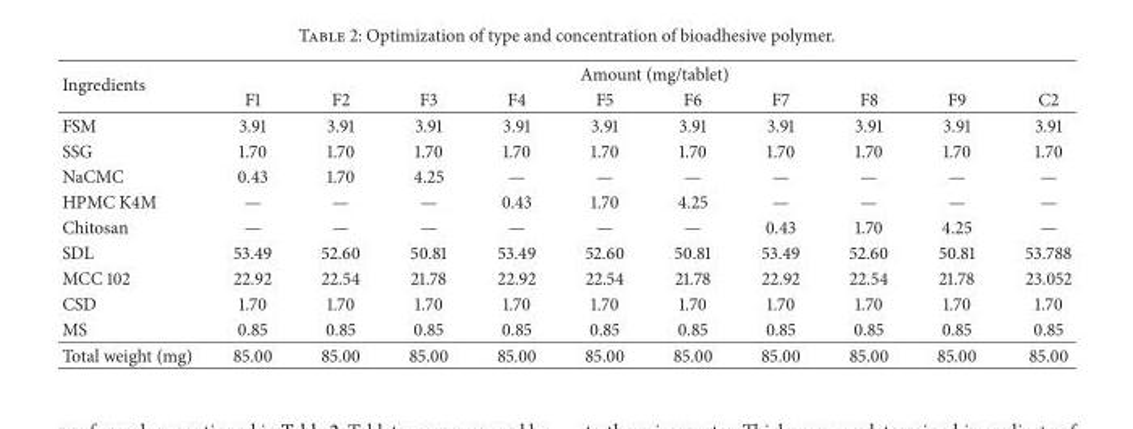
<table><thead><tr><td rowspan="2">Ingredients</td><td colspan="10">Amount (mg/tablet)</td></tr><tr><td>F1</td><td>F2</td><td>F3</td><td>F4</td><td>F5</td><td>F6</td><td>F7</td><td>F8</td><td>F9</td><td>C2</td></tr></thead><tbody><tr><td>FSM</td><td>3.91</td><td>3.91</td><td>3.91</td><td>3.91</td><td>3.91</td><td>3.91</td><td>3.91</td><td>3.91</td><td>3.91</td><td>3.91</td></tr><tr><td>SSG</td><td>1.70</td><td>1.70</td><td>1.70</td><td>1.70</td><td>1.70</td><td>1.70</td><td>1.70</td><td>1.70</td><td>1.70</td><td>1.70</td></tr><tr><td>NaCMC</td><td>0.43</td><td>1.70</td><td>4.25</td><td>—</td><td>—</td><td>—</td><td>—</td><td>—</td><td>—</td><td>—</td></tr><tr><td>HPMC K4M</td><td>—</td><td>—</td><td>—</td><td>0.43</td><td>1.70</td><td>4.25</td><td>—</td><td>—</td><td>—</td><td>—</td></tr><tr><td>Chitosan</td><td>—</td><td>—</td><td>—</td><td>—</td><td>—</td><td>—</td><td>0.43</td><td>1.70</td><td>4.25</td><td>—</td></tr><tr><td>SDL</td><td>53.49</td><td>52.60</td><td>50.81</td><td>53.49</td><td>52.60</td><td>50.81</td><td>53.49</td><td>52.60</td><td>50.81</td><td>53.788</td></tr><tr><td>MCC 102</td><td>22.92</td><td>22.54</td><td>21.78</td><td>22.92</td><td>22.54</td><td>21.78</td><td>22.92</td><td>22.54</td><td>21.78</td><td>23.052</td></tr><tr><td>CSD</td><td>1.70</td><td>1.70</td><td>1.70</td><td>1.70</td><td>1.70</td><td>1.70</td><td>1.70</td><td>1.70</td><td>1.70</td><td>1.70</td></tr><tr><td>MS</td><td>0.85</td><td>0.85</td><td>0.85</td><td>0.85</td><td>0.85</td><td>0.85</td><td>0.85</td><td>0.85</td><td>0.85</td><td>0.85</td></tr><tr><td>Total weight (mg)</td><td>85.00</td><td>85.00</td><td>85.00</td><td>85.00</td><td>85.00</td><td>85.00</td><td>85.00</td><td>85.00</td><td>85.00</td><td>85.00</td></tr></tbody></table>